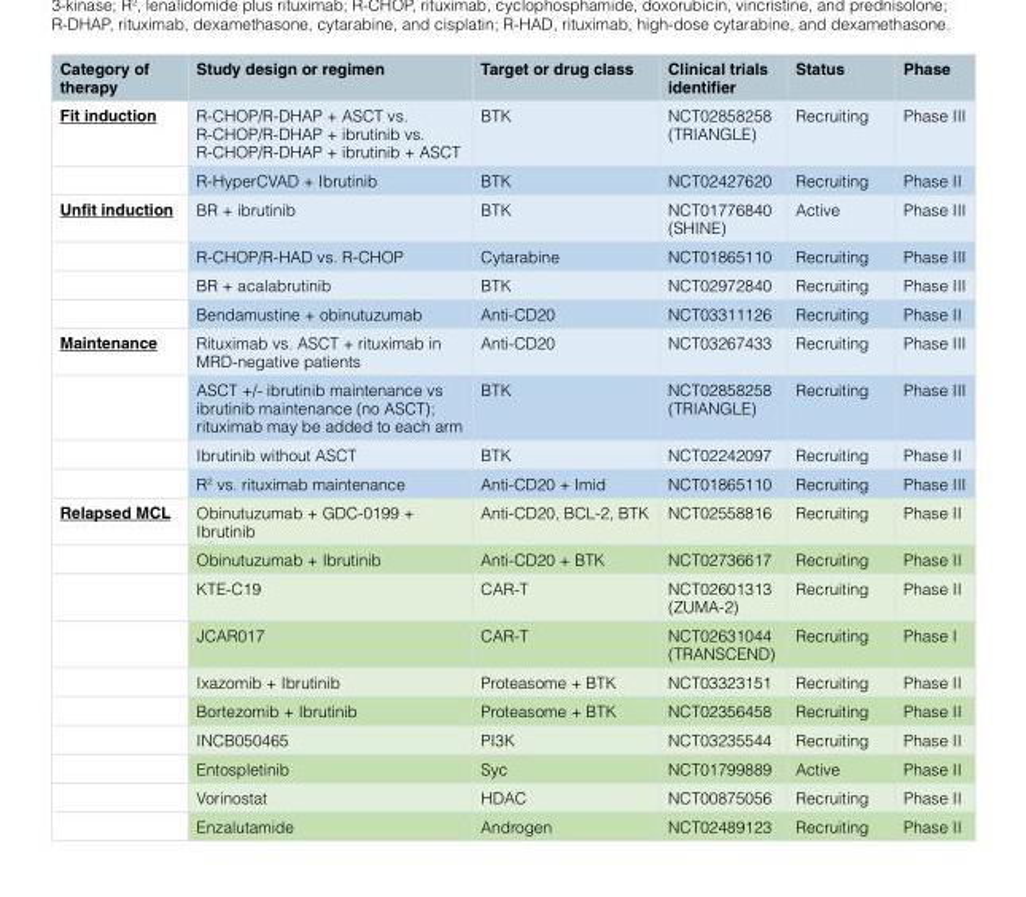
<table><thead><tr><td>Category of therapy</td><td>Study design or regimen</td><td>Target or drug class</td><td>Clinical trials identifier</td><td>Status</td><td>Phase</td></tr></thead><tbody><tr><td rowspan="2">Fit induction</td><td>R-CHOP/R-DHAP + ASCT vs. R-CHOP/R-DHAP + ibrutinib vs. R-CHOP/R-DHAP + ibrutinib + ASCT</td><td>BTK</td><td>NCT02858258 (TRIANGLE)</td><td>Recruiting</td><td>Phase III</td></tr><tr><td>R-HyperCVAD + Ibrutinib</td><td>BTK</td><td>NCT02427620</td><td>Recruiting</td><td>Phase II</td></tr><tr><td rowspan="4">Unfit induction</td><td>BR + ibrutinib</td><td>BTK</td><td>NCT01776840 (SHINE)</td><td>Active</td><td>Phase III</td></tr><tr><td>R-CHOP/R-HAD vs. R-CHOP</td><td>Cytarabine</td><td>NCT01865110</td><td>Recruiting</td><td>Phase III</td></tr><tr><td>BR + acalabrutinib</td><td>BTK</td><td>NCT02972840</td><td>Recruiting</td><td>Phase III</td></tr><tr><td>Bendamustine + obinutuzumab</td><td>Anti-CD20</td><td>NCT03311126</td><td>Recruiting</td><td>Phase II</td></tr><tr><td rowspan="4">Maintenance</td><td>Rituximab vs. ASCT + rituximab in MRD-negative patients</td><td>Anti-CD20</td><td>NCT03267433</td><td>Recruiting</td><td>Phase III</td></tr><tr><td>ASCT +/- ibrutinib maintenance vs ibrutinib maintenance (no ASCT); rituximab may be added to each arm</td><td>BTK</td><td>NCT02858258 (TRIANGLE)</td><td>Recruiting</td><td>Phase III</td></tr><tr><td>Ibrutinib without ASCT</td><td>BTK</td><td>NCT02242097</td><td>Recruiting</td><td>Phase II</td></tr><tr><td>R<sup>2</sup> vs. rituximab maintenance</td><td>Anti-CD20 + Imid</td><td>NCT01865110</td><td>Recruiting</td><td>Phase III</td></tr><tr><td rowspan="10">Relapsed MCL</td><td>Obinutuzumab + GDC-0199 + Ibrutinib</td><td>Anti-CD20, BCL-2, BTK</td><td>NCT02558816</td><td>Recruiting</td><td>Phase II</td></tr><tr><td>Obinutuzumab + Ibrutinib</td><td>Anti-CD20 + BTK</td><td>NCT02736617</td><td>Recruiting</td><td>Phase II</td></tr><tr><td>KTE-C19</td><td>CAR-T</td><td>NCT02601313 (ZUMA-2)</td><td>Recruiting</td><td>Phase II</td></tr><tr><td>JCAR017</td><td>CAR-T</td><td>NCT02631044 (TRANSCEND)</td><td>Recruiting</td><td>Phase I</td></tr><tr><td>Ixazomib + Ibrutinib</td><td>Proteasome + BTK</td><td>NCT03323151</td><td>Recruiting</td><td>Phase II</td></tr><tr><td>Bortezomib + Ibrutinib</td><td>Proteasome + BTK</td><td>NCT02356458</td><td>Recruiting</td><td>Phase II</td></tr><tr><td>INCB050465</td><td>PI3K</td><td>NCT03235544</td><td>Recruiting</td><td>Phase II</td></tr><tr><td>Entospletinib</td><td>Syc</td><td>NCT01799889</td><td>Active</td><td>Phase II</td></tr><tr><td>Vorinostat</td><td>HDAC</td><td>NCT00875056</td><td>Recruiting</td><td>Phase II</td></tr><tr><td>Enzalutamide</td><td>Androgen</td><td>NCT02489123</td><td>Recruiting</td><td>Phase II</td></tr></tbody></table>